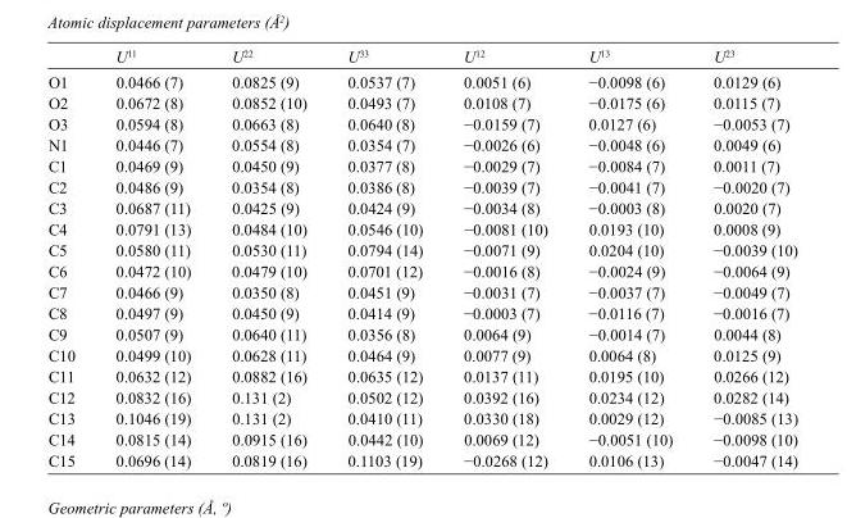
<table><thead><tr><td></td><td>U<sup>11</sup></td><td>U<sup>22</sup></td><td>U<sup>33</sup></td><td>U<sup>12</sup></td><td>U<sup>13</sup></td><td>U<sup>23</sup></td></tr></thead><tbody><tr><td>O1</td><td>0.0466 (7)</td><td>0.0825 (9)</td><td>0.0537 (7)</td><td>0.0051 (6)</td><td>−0.0098 (6)</td><td>0.0129 (6)</td></tr><tr><td>O2</td><td>0.0672 (8)</td><td>0.0852 (10)</td><td>0.0493 (7)</td><td>0.0108 (7)</td><td>−0.0175 (6)</td><td>0.0115 (7)</td></tr><tr><td>O3</td><td>0.0594 (8)</td><td>0.0663 (8)</td><td>0.0640 (8)</td><td>−0.0159 (7)</td><td>0.0127 (6)</td><td>−0.0053 (7)</td></tr><tr><td>N1</td><td>0.0446 (7)</td><td>0.0554 (8)</td><td>0.0354 (7)</td><td>−0.0026 (6)</td><td>−0.0048 (6)</td><td>0.0049 (6)</td></tr><tr><td>C1</td><td>0.0469 (9)</td><td>0.0450 (9)</td><td>0.0377 (8)</td><td>−0.0029 (7)</td><td>−0.0084 (7)</td><td>0.0011 (7)</td></tr><tr><td>C2</td><td>0.0486 (9)</td><td>0.0354 (8)</td><td>0.0386 (8)</td><td>−0.0039 (7)</td><td>−0.0041 (7)</td><td>−0.0020 (7)</td></tr><tr><td>C3</td><td>0.0687 (11)</td><td>0.0425 (9)</td><td>0.0424 (9)</td><td>−0.0034 (8)</td><td>−0.0003 (8)</td><td>0.0020 (7)</td></tr><tr><td>C4</td><td>0.0791 (13)</td><td>0.0484 (10)</td><td>0.0546 (10)</td><td>−0.0081 (10)</td><td>0.0193 (10)</td><td>0.0008 (9)</td></tr><tr><td>C5</td><td>0.0580 (11)</td><td>0.0530 (11)</td><td>0.0794 (14)</td><td>−0.0071 (9)</td><td>0.0204 (10)</td><td>−0.0039 (10)</td></tr><tr><td>C6</td><td>0.0472 (10)</td><td>0.0479 (10)</td><td>0.0701 (12)</td><td>−0.0016 (8)</td><td>−0.0024 (9)</td><td>−0.0064 (9)</td></tr><tr><td>C7</td><td>0.0466 (9)</td><td>0.0350 (8)</td><td>0.0451 (9)</td><td>−0.0031 (7)</td><td>−0.0037 (7)</td><td>−0.0049 (7)</td></tr><tr><td>C8</td><td>0.0497 (9)</td><td>0.0450 (9)</td><td>0.0414 (9)</td><td>−0.0003 (7)</td><td>−0.0116 (7)</td><td>−0.0016 (7)</td></tr><tr><td>C9</td><td>0.0507 (9)</td><td>0.0640 (11)</td><td>0.0356 (8)</td><td>0.0064 (9)</td><td>−0.0014 (7)</td><td>0.0044 (8)</td></tr><tr><td>C10</td><td>0.0499 (10)</td><td>0.0628 (11)</td><td>0.0464 (9)</td><td>0.0077 (9)</td><td>0.0064 (8)</td><td>0.0125 (9)</td></tr><tr><td>C11</td><td>0.0632 (12)</td><td>0.0882 (16)</td><td>0.0635 (12)</td><td>0.0137 (11)</td><td>0.0195 (10)</td><td>0.0266 (12)</td></tr><tr><td>C12</td><td>0.0832 (16)</td><td>0.131 (2)</td><td>0.0502 (12)</td><td>0.0392 (16)</td><td>0.0234 (12)</td><td>0.0282 (14)</td></tr><tr><td>C13</td><td>0.1046 (19)</td><td>0.131 (2)</td><td>0.0410 (11)</td><td>0.0330 (18)</td><td>0.0029 (12)</td><td>−0.0085 (13)</td></tr><tr><td>C14</td><td>0.0815 (14)</td><td>0.0915 (16)</td><td>0.0442 (10)</td><td>0.0069 (12)</td><td>−0.0051 (10)</td><td>−0.0098 (10)</td></tr><tr><td>C15</td><td>0.0696 (14)</td><td>0.0819 (16)</td><td>0.1103 (19)</td><td>−0.0268 (12)</td><td>0.0106 (13)</td><td>−0.0047 (14)</td></tr></tbody></table>